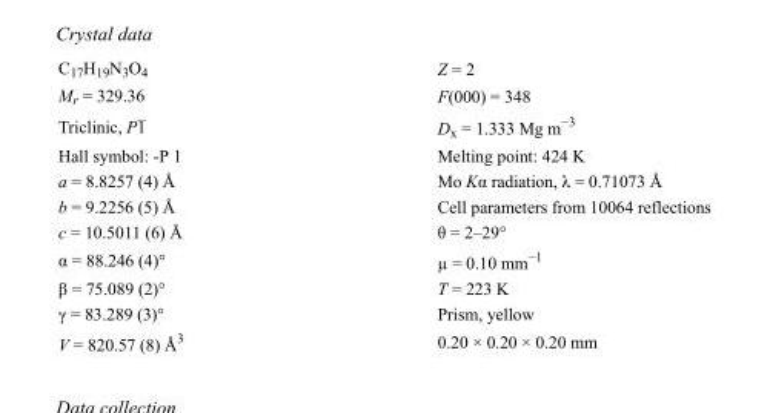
<table><tbody><tr><td>C<sub>17</sub>H<sub>19</sub>N<sub>3</sub>O<sub>4</sub></td><td>Z = 2</td></tr><tr><td>M<sub>r</sub> = 329.36</td><td>F(000) = 348</td></tr><tr><td>Triclinic, P1</td><td>D<sub>x</sub> = 1.333 Mg m<sup>−3</sup></td></tr><tr><td>Hall symbol: -P 1</td><td>Melting point: 424 K</td></tr><tr><td>a = 8.8257 (4) Å</td><td>Mo Kα radiation, λ = 0.71073 Å</td></tr><tr><td>b = 9.2256 (5) Å</td><td>Cell parameters from 10064 reflections</td></tr><tr><td>c = 10.5011 (6) Å</td><td>θ = 2–29°</td></tr><tr><td>α = 88.246 (4)°</td><td>µ = 0.10 mm<sup>−1</sup></td></tr><tr><td>β = 75.089 (2)°</td><td>T = 223 K</td></tr><tr><td>γ = 83.289 (3)°</td><td>Prism, yellow</td></tr><tr><td>V = 820.57 (8) Å<sup>3</sup></td><td>0.20 × 0.20 × 0.20 mm</td></tr></tbody></table>